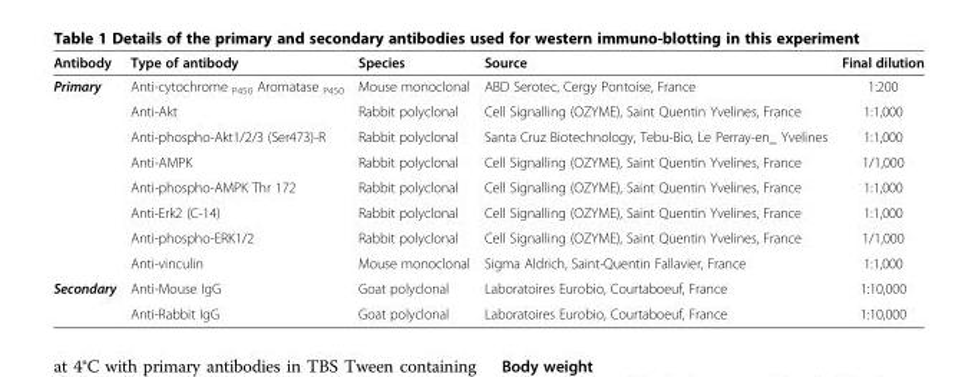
<table><thead><tr><td>Antibody</td><td>Type of antibody</td><td>Species</td><td>Source</td><td>Final dilution</td></tr></thead><tbody><tr><td rowspan="8">Primary</td><td>Anti-cytochrome <sub>P450</sub> Aromatase <sub>P450</sub></td><td>Mouse monoclonal</td><td>ABD Serotec, Cergy Pontoise, France</td><td>1:200</td></tr><tr><td>Anti-Akt</td><td>Rabbit polyclonal</td><td>Cell Signalling (OZYME), Saint Quentin Yvelines, France</td><td>1:1,000</td></tr><tr><td>Anti-phospho-Akt1/2/3 (Ser473)-R</td><td>Rabbit polyclonal</td><td>Santa Cruz Biotechnology, Tebu-Bio, Le Perray-en_ Yvelines</td><td>1:1,000</td></tr><tr><td>Anti-AMPK</td><td>Rabbit polyclonal</td><td>Cell Signalling (OZYME), Saint Quentin Yvelines, France</td><td>1/1,000</td></tr><tr><td>Anti-phospho-AMPK Thr 172</td><td>Rabbit polyclonal</td><td>Cell Signalling (OZYME), Saint Quentin Yvelines, France</td><td>1:1,000</td></tr><tr><td>Anti-Erk2 (C-14)</td><td>Rabbit polyclonal</td><td>Cell Signalling (OZYME), Saint Quentin Yvelines, France</td><td>1:1,000</td></tr><tr><td>Anti-phospho-ERK1/2</td><td>Rabbit polyclonal</td><td>Cell Signalling (OZYME), Saint Quentin Yvelines, France</td><td>1/1,000</td></tr><tr><td>Anti-vinculin</td><td>Mouse monoclonal</td><td>Sigma Aldrich, Saint-Quentin Fallavier, France</td><td>1:1,000</td></tr><tr><td rowspan="2">Secondary</td><td>Anti-Mouse IgG</td><td>Goat polyclonal</td><td>Laboratoires Eurobio, Courtaboeuf, France</td><td>1:10,000</td></tr><tr><td>Anti-Rabbit IgG</td><td>Goat polyclonal</td><td>Laboratoires Eurobio, Courtaboeuf, France</td><td>1:10,000</td></tr></tbody></table>